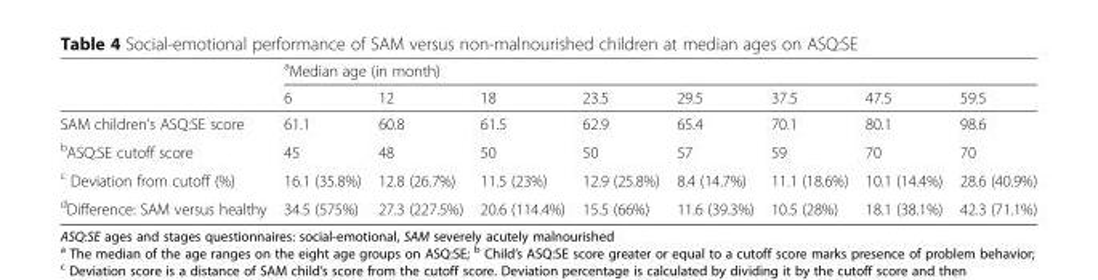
<table><thead><tr><td rowspan="2"></td><td colspan="8"><sup>a</sup>Median age (in month)</td></tr><tr><td>6</td><td>12</td><td>18</td><td>23.5</td><td>29.5</td><td>37.5</td><td>47.5</td><td>59.5</td></tr></thead><tbody><tr><td>SAM children’s ASQ:SE score</td><td>61.1</td><td>60.8</td><td>61.5</td><td>62.9</td><td>65.4</td><td>70.1</td><td>80.1</td><td>98.6</td></tr><tr><td><sup>b</sup>ASQ:SE cutoff score</td><td>45</td><td>48</td><td>50</td><td>50</td><td>57</td><td>59</td><td>70</td><td>70</td></tr><tr><td><sup>c</sup> Deviation from cutoff (%)</td><td>16.1 (35.8%)</td><td>12.8 (26.7%)</td><td>11.5 (23%)</td><td>12.9 (25.8%)</td><td>8.4 (14.7%)</td><td>11.1 (18.6%)</td><td>10.1 (14.4%)</td><td>28.6 (40.9%)</td></tr><tr><td><sup>d</sup>Difference: SAM versus healthy</td><td>34.5 (575%)</td><td>27.3 (227.5%)</td><td>20.6 (114.4%)</td><td>15.5 (66%)</td><td>11.6 (39.3%)</td><td>10.5 (28%)</td><td>18.1 (38.1%)</td><td>42.3 (71.1%)</td></tr></tbody></table>